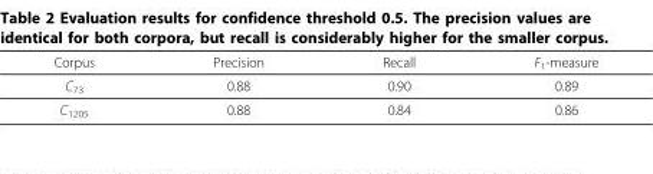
<table><thead><tr><td>Corpus</td><td>Precision</td><td>Recall</td><td>F<sub>1</sub>-measure</td></tr></thead><tbody><tr><td>C<sub>73</sub></td><td>0.88</td><td>0.90</td><td>0.89</td></tr><tr><td>C<sub>1205</sub></td><td>0.88</td><td>0.84</td><td>0.86</td></tr></tbody></table>